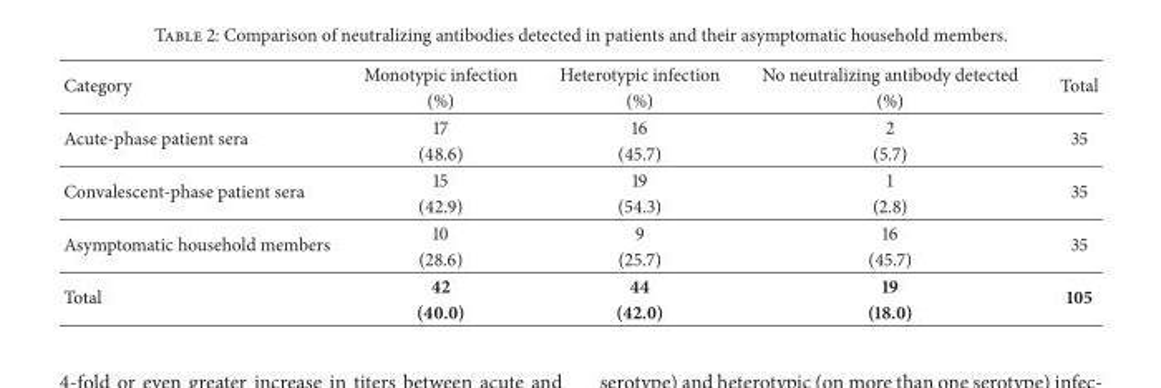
<table><thead><tr><td rowspan="2">Category</td><td rowspan="2">Monotypic infection (%)</td><td rowspan="2">Heterotypic infection (%)</td><td rowspan="2">No neutralizing antibody detected (%)</td><td rowspan="2">Total</td></tr><tr></tr></thead><tbody><tr><td rowspan="2">Acute-phase patient sera</td><td>17</td><td>16</td><td>2</td><td rowspan="2">35</td></tr><tr><td>(48.6)</td><td>(45.7)</td><td>(5.7)</td></tr><tr><td rowspan="2">Convalescent-phase patient sera</td><td>15</td><td>19</td><td>1</td><td rowspan="2">35</td></tr><tr><td>(42.9)</td><td>(54.3)</td><td>(2.8)</td></tr><tr><td rowspan="2">Asymptomatic household members</td><td>10</td><td>9</td><td>16</td><td rowspan="2">35</td></tr><tr><td>(28.6)</td><td>(25.7)</td><td>(45.7)</td></tr><tr><td rowspan="2">Total</td><td>42</td><td>44</td><td>19</td><td rowspan="2">105</td></tr><tr><td>(40.0)</td><td>(42.0)</td><td>(18.0)</td></tr></tbody></table>